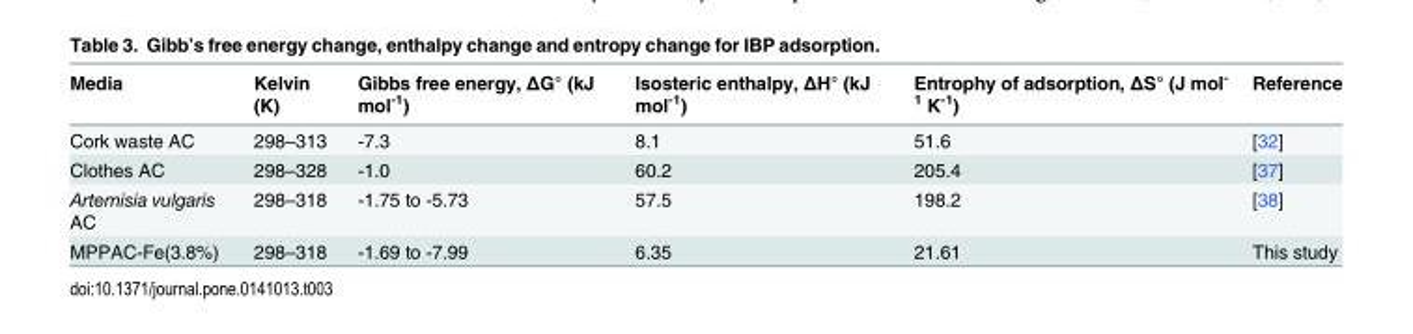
<table><thead><tr><td>Media</td><td>Kelvin (K)</td><td>Gibbs free energy, ΔG° (kJ mol<sup>-1</sup>)</td><td>Isosteric enthalpy, ΔH° (kJ mol<sup>-1</sup>)</td><td>Entrophy of adsorption, ΔS° (J mol<sup>- 1</sup> K<sup>-1</sup>)</td><td>Reference</td></tr></thead><tbody><tr><td>Cork waste AC</td><td>298–313</td><td>-7.3</td><td>8.1</td><td>51.6</td><td>[32]</td></tr><tr><td>Clothes AC</td><td>298–328</td><td>-1.0</td><td>60.2</td><td>205.4</td><td>[37]</td></tr><tr><td>Artemisia vulgaris AC</td><td>298–318</td><td>-1.75 to -5.73</td><td>57.5</td><td>198.2</td><td>[38]</td></tr><tr><td>MPPAC-Fe(3.8%)</td><td>298–318</td><td>-1.69 to -7.99</td><td>6.35</td><td>21.61</td><td>This study</td></tr></tbody></table>